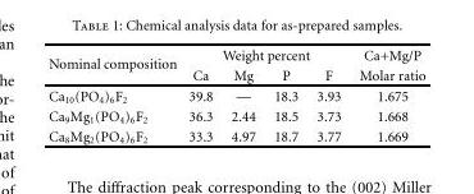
<table><thead><tr><td rowspan="2">Nominal composition</td><td colspan="4">Weight percent</td><td rowspan="2">Ca+Mg/P Molar ratio</td></tr><tr><td>Ca</td><td>Mg</td><td>P</td><td>F</td></tr></thead><tbody><tr><td>Ca<sub>10</sub>(PO<sub>4</sub>)<sub>6</sub>F<sub>2</sub></td><td>39.8</td><td>—</td><td>18.3</td><td>3.93</td><td>1.675</td></tr><tr><td>Ca<sub>9</sub>Mg<sub>1</sub>(PO<sub>4</sub>)<sub>6</sub>F<sub>2</sub></td><td>36.3</td><td>2.44</td><td>18.5</td><td>3.73</td><td>1.668</td></tr><tr><td>Ca<sub>8</sub>Mg<sub>2</sub>(PO<sub>4</sub>)<sub>6</sub>F<sub>2</sub></td><td>33.3</td><td>4.97</td><td>18.7</td><td>3.77</td><td>1.669</td></tr></tbody></table>